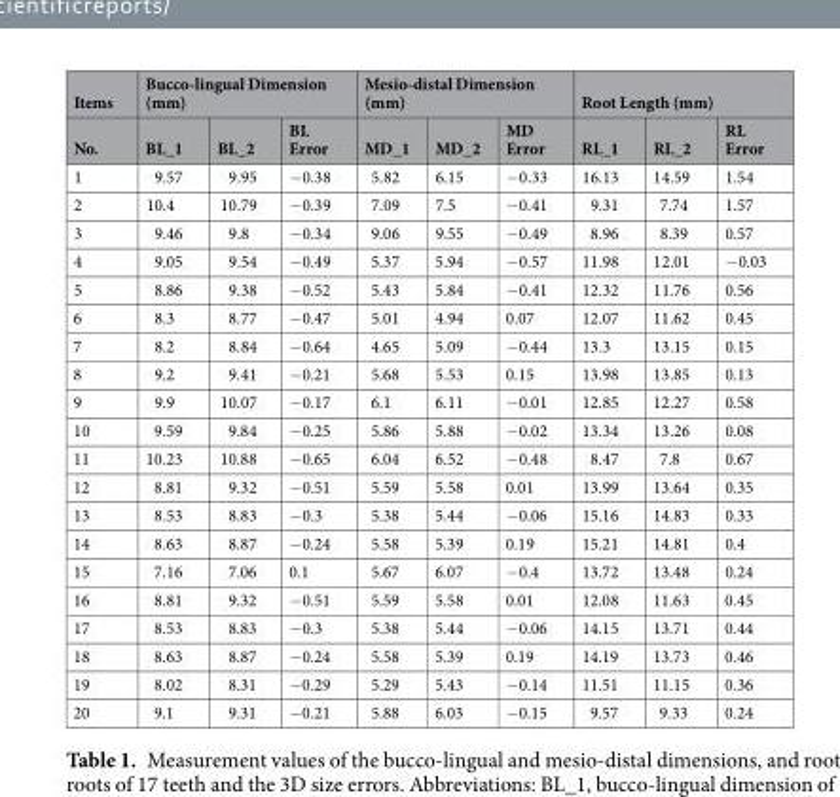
<table><thead><tr><td rowspan="2">Items No.</td><td colspan="3">Bucco-lingual Dimension (mm)</td><td colspan="3">Mesio-distal Dimension (mm)</td><td colspan="3">Root Length (mm)</td></tr><tr><td>BL_1</td><td>BL_2</td><td>BL Error</td><td>MD_1</td><td>MD_2</td><td>MD Error</td><td>RL_1</td><td>RL_2</td><td>RL Error</td></tr></thead><tbody><tr><td>1</td><td>9.57</td><td>9.95</td><td>−0.38</td><td>5.82</td><td>6.15</td><td>−0.33</td><td>16.13</td><td>14.59</td><td>1.54</td></tr><tr><td>2</td><td>10.4</td><td>10.79</td><td>−0.39</td><td>7.09</td><td>7.5</td><td>−0.41</td><td>9.31</td><td>7.74</td><td>1.57</td></tr><tr><td>3</td><td>9.46</td><td>9.8</td><td>−0.34</td><td>9.06</td><td>9.55</td><td>−0.49</td><td>8.96</td><td>8.39</td><td>0.57</td></tr><tr><td>4</td><td>9.05</td><td>9.54</td><td>−0.49</td><td>5.37</td><td>5.94</td><td>−0.57</td><td>11.98</td><td>12.01</td><td>−0.03</td></tr><tr><td>5</td><td>8.86</td><td>9.38</td><td>−0.52</td><td>5.43</td><td>5.84</td><td>−0.41</td><td>12.32</td><td>11.76</td><td>0.56</td></tr><tr><td>6</td><td>8.3</td><td>8.77</td><td>−0.47</td><td>5.01</td><td>4.94</td><td>0.07</td><td>12.07</td><td>11.62</td><td>0.45</td></tr><tr><td>7</td><td>8.2</td><td>8.84</td><td>−0.64</td><td>4.65</td><td>5.09</td><td>−0.44</td><td>13.3</td><td>13.15</td><td>0.15</td></tr><tr><td>8</td><td>9.2</td><td>9.41</td><td>−0.21</td><td>5.68</td><td>5.53</td><td>0.15</td><td>13.98</td><td>13.85</td><td>0.13</td></tr><tr><td>9</td><td>9.9</td><td>10.07</td><td>−0.17</td><td>6.1</td><td>6.11</td><td>−0.01</td><td>12.85</td><td>12.27</td><td>0.58</td></tr><tr><td>10</td><td>9.59</td><td>9.84</td><td>−0.25</td><td>5.86</td><td>5.88</td><td>−0.02</td><td>13.34</td><td>13.26</td><td>0.08</td></tr><tr><td>11</td><td>10.23</td><td>10.88</td><td>−0.65</td><td>6.04</td><td>6.52</td><td>−0.48</td><td>8.47</td><td>7.8</td><td>0.67</td></tr><tr><td>12</td><td>8.81</td><td>9.32</td><td>−0.51</td><td>5.59</td><td>5.58</td><td>0.01</td><td>13.99</td><td>13.64</td><td>0.35</td></tr><tr><td>13</td><td>8.53</td><td>8.83</td><td>−0.3</td><td>5.38</td><td>5.44</td><td>−0.06</td><td>15.16</td><td>14.83</td><td>0.33</td></tr><tr><td>14</td><td>8.63</td><td>8.87</td><td>−0.24</td><td>5.58</td><td>5.39</td><td>0.19</td><td>15.21</td><td>14.81</td><td>0.4</td></tr><tr><td>15</td><td>7.16</td><td>7.06</td><td>0.1</td><td>5.67</td><td>6.07</td><td>−0.4</td><td>13.72</td><td>13.48</td><td>0.24</td></tr><tr><td>16</td><td>8.81</td><td>9.32</td><td>−0.51</td><td>5.59</td><td>5.58</td><td>0.01</td><td>12.08</td><td>11.63</td><td>0.45</td></tr><tr><td>17</td><td>8.53</td><td>8.83</td><td>−0.3</td><td>5.38</td><td>5.44</td><td>−0.06</td><td>14.15</td><td>13.71</td><td>0.44</td></tr><tr><td>18</td><td>8.63</td><td>8.87</td><td>−0.24</td><td>5.58</td><td>5.39</td><td>0.19</td><td>14.19</td><td>13.73</td><td>0.46</td></tr><tr><td>19</td><td>8.02</td><td>8.31</td><td>−0.29</td><td>5.29</td><td>5.43</td><td>−0.14</td><td>11.51</td><td>11.15</td><td>0.36</td></tr><tr><td>20</td><td>9.1</td><td>9.31</td><td>−0.21</td><td>5.88</td><td>6.03</td><td>−0.15</td><td>9.57</td><td>9.33</td><td>0.24</td></tr></tbody></table>